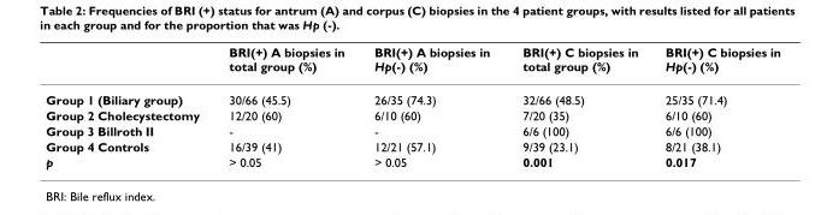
<table><thead><tr><td></td><td>BRI(+) A biopsies in total group (%)</td><td>BRI(+) A biopsies in Hp(-) (%)</td><td>BRI(+) C biopsies in total group (%)</td><td>BRI(+) C biopsies in Hp(-) (%)</td></tr></thead><tbody><tr><td>Group 1 (Biliary group)</td><td>30/66 (45.5)</td><td>26/35 (74.3)</td><td>32/66 (48.5)</td><td>25/35 (71.4)</td></tr><tr><td>Group 2 Cholecystectomy</td><td>12/20 (60)</td><td>6/10 (60)</td><td>7/20 (35)</td><td>6/10 (60)</td></tr><tr><td>Group 3 Billroth II</td><td>-</td><td>-</td><td>6/6 (100)</td><td>6/6 (100)</td></tr><tr><td>Group 4 Controls</td><td>16/39 (41)</td><td>12/21 (57.1)</td><td>9/39 (23.1)</td><td>8/21 (38.1)</td></tr><tr><td>p</td><td>&gt; 0.05</td><td>&gt; 0.05</td><td>0.001</td><td>0.017</td></tr></tbody></table>